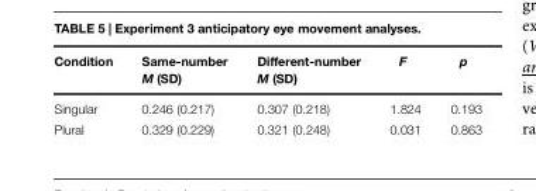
<table><thead><tr><td>Condition</td><td>Same-number M (SD)</td><td>Different-number M (SD)</td><td>F</td><td>p</td></tr></thead><tbody><tr><td>Singular</td><td>0.246 (0.217)</td><td>0.307 (0.218)</td><td>1.824</td><td>0.193</td></tr><tr><td>Plural</td><td>0.329 (0.229)</td><td>0.321 (0.248)</td><td>0.031</td><td>0.863</td></tr></tbody></table>